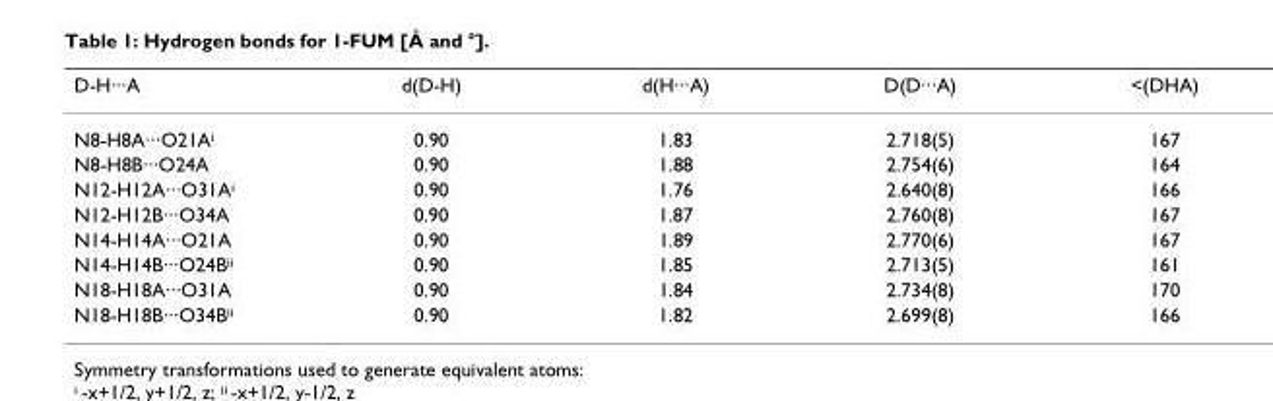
<table><thead><tr><td>D-H···A</td><td>d(D-H)</td><td>d(H···A)</td><td>D(D···A)</td><td>&lt;(DHA)</td></tr></thead><tbody><tr><td>N8-H8A···O21A<sup>i</sup></td><td>0.90</td><td>1.83</td><td>2.718(5)</td><td>167</td></tr><tr><td>N8-H8B···O24A</td><td>0.90</td><td>1.88</td><td>2.754(6)</td><td>164</td></tr><tr><td>N12-H12A···O31A<sup>i</sup></td><td>0.90</td><td>1.76</td><td>2.640(8)</td><td>166</td></tr><tr><td>N12-H12B···O34A</td><td>0.90</td><td>1.87</td><td>2.760(8)</td><td>167</td></tr><tr><td>N14-H14A···O21A</td><td>0.90</td><td>1.89</td><td>2.770(6)</td><td>167</td></tr><tr><td>N14-H14B···O24B<sup>ii</sup></td><td>0.90</td><td>1.85</td><td>2.713(5)</td><td>161</td></tr><tr><td>N18-H18A···O31A</td><td>0.90</td><td>1.84</td><td>2.734(8)</td><td>170</td></tr><tr><td>N18-H18B···O34B<sup>ii</sup></td><td>0.90</td><td>1.82</td><td>2.699(8)</td><td>166</td></tr></tbody></table>